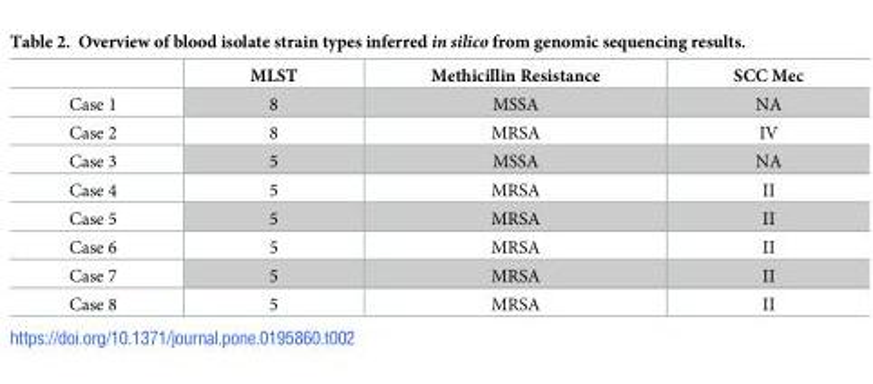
<table><thead><tr><td></td><td>MLST</td><td>Methicillin Resistance</td><td>SCC Mec</td></tr></thead><tbody><tr><td>Case 1</td><td>8</td><td>MSSA</td><td>NA</td></tr><tr><td>Case 2</td><td>8</td><td>MRSA</td><td>IV</td></tr><tr><td>Case 3</td><td>5</td><td>MSSA</td><td>NA</td></tr><tr><td>Case 4</td><td>5</td><td>MRSA</td><td>II</td></tr><tr><td>Case 5</td><td>5</td><td>MRSA</td><td>II</td></tr><tr><td>Case 6</td><td>5</td><td>MRSA</td><td>II</td></tr><tr><td>Case 7</td><td>5</td><td>MRSA</td><td>II</td></tr><tr><td>Case 8</td><td>5</td><td>MRSA</td><td>II</td></tr></tbody></table>